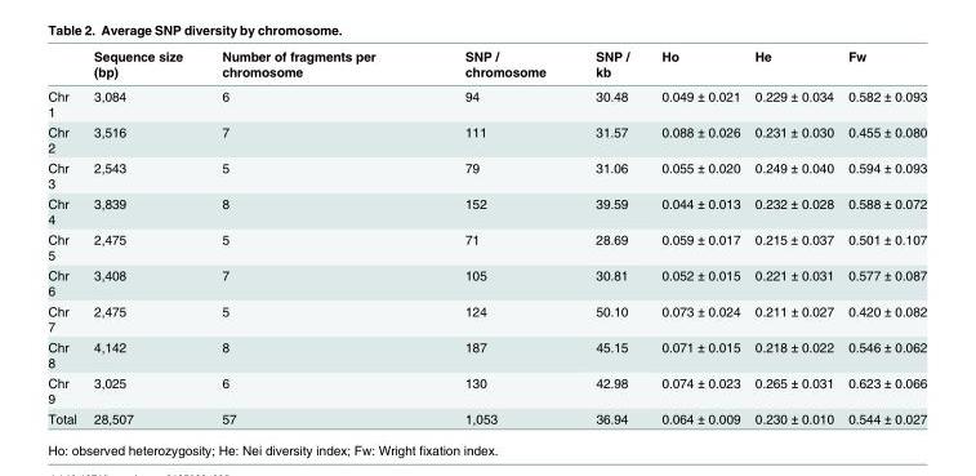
<table><thead><tr><td></td><td>Sequence size (bp)</td><td>Number of fragments per chromosome</td><td>SNP / chromosome</td><td>SNP / kb</td><td>Ho</td><td>He</td><td>Fw</td></tr></thead><tbody><tr><td>Chr 1</td><td>3,084</td><td>6</td><td>94</td><td>30.48</td><td>0.049 ± 0.021</td><td>0.229 ± 0.034</td><td>0.582 ± 0.093</td></tr><tr><td>Chr 2</td><td>3,516</td><td>7</td><td>111</td><td>31.57</td><td>0.088 ± 0.026</td><td>0.231 ± 0.030</td><td>0.455 ± 0.080</td></tr><tr><td>Chr 3</td><td>2,543</td><td>5</td><td>79</td><td>31.06</td><td>0.055 ± 0.020</td><td>0.249 ± 0.040</td><td>0.594 ± 0.093</td></tr><tr><td>Chr 4</td><td>3,839</td><td>8</td><td>152</td><td>39.59</td><td>0.044 ± 0.013</td><td>0.232 ± 0.028</td><td>0.588 ± 0.072</td></tr><tr><td>Chr 5</td><td>2,475</td><td>5</td><td>71</td><td>28.69</td><td>0.059 ± 0.017</td><td>0.215 ± 0.037</td><td>0.501 ± 0.107</td></tr><tr><td>Chr 6</td><td>3,408</td><td>7</td><td>105</td><td>30.81</td><td>0.052 ± 0.015</td><td>0.221 ± 0.031</td><td>0.577 ± 0.087</td></tr><tr><td>Chr 7</td><td>2,475</td><td>5</td><td>124</td><td>50.10</td><td>0.073 ± 0.024</td><td>0.211 ± 0.027</td><td>0.420 ± 0.082</td></tr><tr><td>Chr 8</td><td>4,142</td><td>8</td><td>187</td><td>45.15</td><td>0.071 ± 0.015</td><td>0.218 ± 0.022</td><td>0.546 ± 0.062</td></tr><tr><td>Chr 9</td><td>3,025</td><td>6</td><td>130</td><td>42.98</td><td>0.074 ± 0.023</td><td>0.265 ± 0.031</td><td>0.623 ± 0.066</td></tr><tr><td>Total</td><td>28,507</td><td>57</td><td>1,053</td><td>36.94</td><td>0.064 ± 0.009</td><td>0.230 ± 0.010</td><td>0.544 ± 0.027</td></tr></tbody></table>